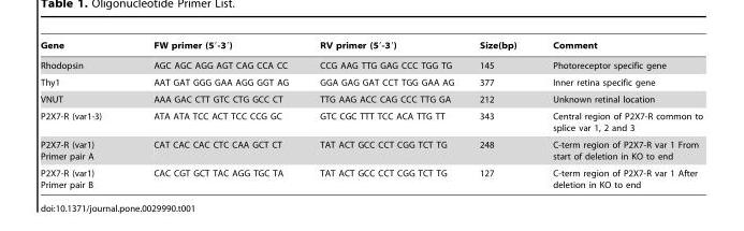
<table><thead><tr><td>Gene</td><td>FW primer (5′-3′)</td><td>RV primer (5′-3′)</td><td>Size(bp)</td><td>Comment</td></tr></thead><tbody><tr><td>Rhodopsin</td><td>AGC AGC AGG AGT CAG CCA CC</td><td>CCG AAG TTG GAG CCC TGG TG</td><td>145</td><td>Photoreceptor specific gene</td></tr><tr><td>Thy1</td><td>AAT GAT GGG GAA AGG GGT AG</td><td>GGA GAG GAT CCT TGG GAA AG</td><td>377</td><td>Inner retina specific gene</td></tr><tr><td>VNUT</td><td>AAA GAC CTT GTC CTG GCC CT</td><td>TTG AAG ACC CAG CCC TTG GA</td><td>212</td><td>Unknown retinal location</td></tr><tr><td>P2X7-R (var1-3)</td><td>ATA ATA TCC ACT TCC CCG GC</td><td>GTC CGC TTT TCC ACA TTG TT</td><td>343</td><td>Central region of P2X7-R common to splice var 1, 2 and 3</td></tr><tr><td>P2X7-R (var1) Primer pair A</td><td>CAT CAC CAC CTC CAA GCT CT</td><td>TAT ACT GCC CCT CGG TCT TG</td><td>248</td><td>C-term region of P2X7-R var 1 From start of deletion in KO to end</td></tr><tr><td>P2X7-R (var1) Primer pair B</td><td>CAC CGT GCT TAC AGG TGC TA</td><td>TAT ACT GCC CCT CGG TCT TG</td><td>127</td><td>C-term region of P2X7-R var 1 After deletion in KO to end</td></tr></tbody></table>